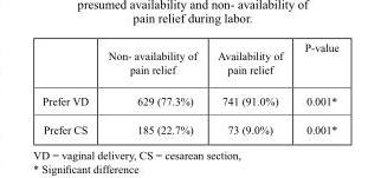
<table><thead><tr><td></td><td>Non- availability of pain relief</td><td>Availability of pain relief</td><td>P-value</td></tr></thead><tbody><tr><td>Prefer VD</td><td>629 (77.3%)</td><td>741 (91.0%)</td><td>0.001*</td></tr><tr><td>Prefer CS</td><td>185 (22.7%)</td><td>73 (9.0%)</td><td>0.001*</td></tr></tbody></table>